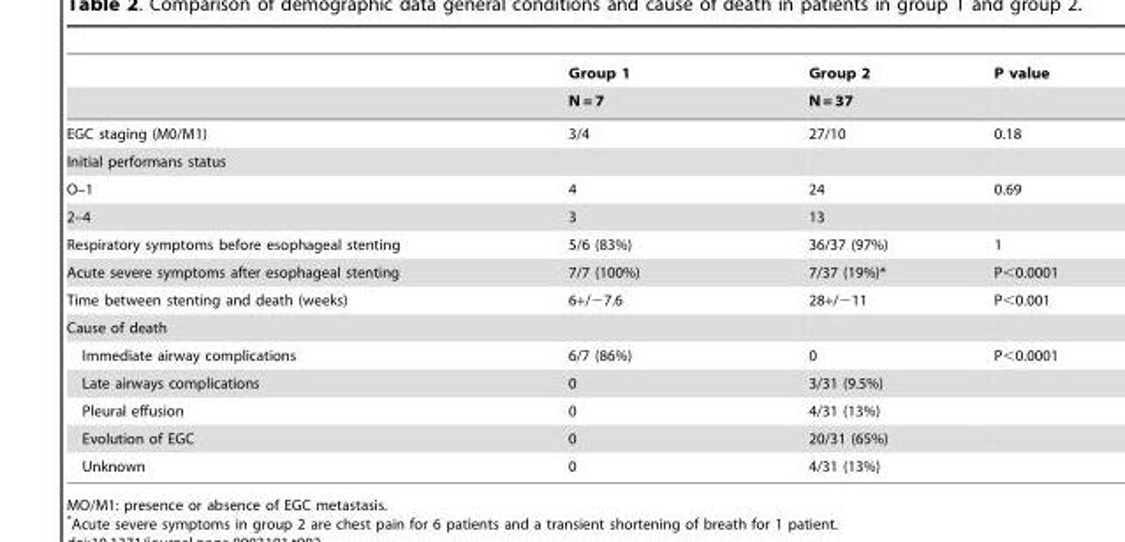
<table><thead><tr><td rowspan="2"></td><td rowspan="2">Group 1 N = 7</td><td rowspan="2">Group 2 N = 37</td><td rowspan="2">P value</td></tr><tr></tr></thead><tbody><tr><td>EGC staging (M0/M1)</td><td>3/4</td><td>27/10</td><td>0.18</td></tr><tr><td colspan="4">Initial performans status</td></tr><tr><td>O–1</td><td>4</td><td>24</td><td>0.69</td></tr><tr><td>2–4</td><td>3</td><td>13</td><td></td></tr><tr><td>Respiratory symptoms before esophageal stenting</td><td>5/6 (83%)</td><td>36/37 (97%)</td><td>1</td></tr><tr><td>Acute severe symptoms after esophageal stenting</td><td>7/7 (100%)</td><td>7/37 (19%)*</td><td>P&lt;0.0001</td></tr><tr><td>Time between stenting and death (weeks)</td><td>6+/−7.6</td><td>28+/−11</td><td>P&lt;0.001</td></tr><tr><td colspan="4">Cause of death</td></tr><tr><td>Immediate airway complications</td><td>6/7 (86%)</td><td>0</td><td>P&lt;0.0001</td></tr><tr><td>Late airways complications</td><td>0</td><td>3/31 (9.5%)</td><td></td></tr><tr><td>Pleural effusion</td><td>0</td><td>4/31 (13%)</td><td></td></tr><tr><td>Evolution of EGC</td><td>0</td><td>20/31 (65%)</td><td></td></tr><tr><td>Unknown</td><td>0</td><td>4/31 (13%)</td><td></td></tr></tbody></table>